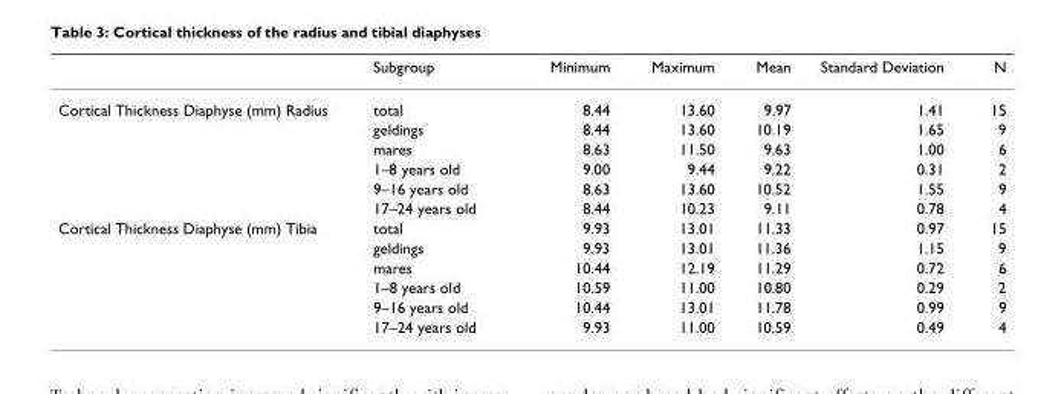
<table><thead><tr><td></td><td>Subgroup</td><td>Minimum</td><td>Maximum</td><td>Mean</td><td>Standard Deviation</td><td>N</td></tr></thead><tbody><tr><td rowspan="6">Cortical Thickness Diaphyse (mm) Radius</td><td>total</td><td>8.44</td><td>13.60</td><td>9.97</td><td>1.41</td><td>15</td></tr><tr><td>geldings</td><td>8.44</td><td>13.60</td><td>10.19</td><td>1.65</td><td>9</td></tr><tr><td>mares</td><td>8.63</td><td>11.50</td><td>9.63</td><td>1.00</td><td>6</td></tr><tr><td>1–8 years old</td><td>9.00</td><td>9.44</td><td>9.22</td><td>0.31</td><td>2</td></tr><tr><td>9–16 years old</td><td>8.63</td><td>13.60</td><td>10.52</td><td>1.55</td><td>9</td></tr><tr><td>17–24 years old</td><td>8.44</td><td>10.23</td><td>9.11</td><td>0.78</td><td>4</td></tr><tr><td rowspan="6">Cortical Thickness Diaphyse (mm) Tibia</td><td>total</td><td>9.93</td><td>13.01</td><td>11.33</td><td>0.97</td><td>15</td></tr><tr><td>geldings</td><td>9.93</td><td>13.01</td><td>11.36</td><td>1.15</td><td>9</td></tr><tr><td>mares</td><td>10.44</td><td>12.19</td><td>11.29</td><td>0.72</td><td>6</td></tr><tr><td>1–8 years old</td><td>10.59</td><td>11.00</td><td>10.80</td><td>0.29</td><td>2</td></tr><tr><td>9–16 years old</td><td>10.44</td><td>13.01</td><td>11.78</td><td>0.99</td><td>9</td></tr><tr><td>17–24 years old</td><td>9.93</td><td>11.00</td><td>10.59</td><td>0.49</td><td>4</td></tr></tbody></table>